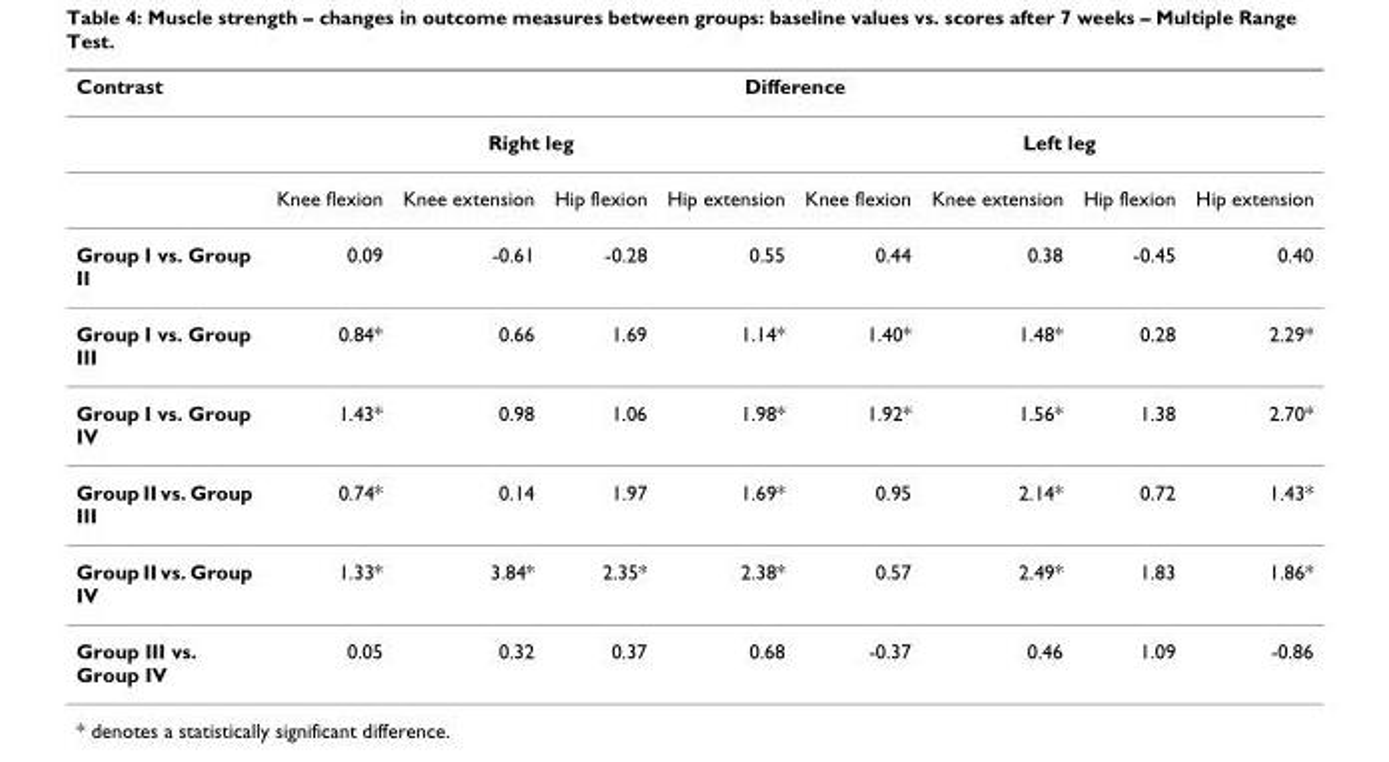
<table><thead><tr><td rowspan="3">Contrast</td><td colspan="8">Difference</td></tr><tr><td colspan="4">Right leg</td><td colspan="4">Left leg</td></tr><tr><td>Knee flexion</td><td>Knee extension</td><td>Hip flexion</td><td>Hip extension</td><td>Knee flexion</td><td>Knee extension</td><td>Hip flexion</td><td>Hip extension</td></tr></thead><tbody><tr><td>Group I vs. Group II</td><td>0.09</td><td>-0.61</td><td>-0.28</td><td>0.55</td><td>0.44</td><td>0.38</td><td>-0.45</td><td>0.40</td></tr><tr><td>Group I vs. Group III</td><td>0.84*</td><td>0.66</td><td>1.69</td><td>1.14*</td><td>1.40*</td><td>1.48*</td><td>0.28</td><td>2.29*</td></tr><tr><td>Group I vs. Group IV</td><td>1.43*</td><td>0.98</td><td>1.06</td><td>1.98*</td><td>1.92*</td><td>1.56*</td><td>1.38</td><td>2.70*</td></tr><tr><td>Group II vs. Group III</td><td>0.74*</td><td>0.14</td><td>1.97</td><td>1.69*</td><td>0.95</td><td>2.14*</td><td>0.72</td><td>1.43*</td></tr><tr><td>Group II vs. Group IV</td><td>1.33*</td><td>3.84*</td><td>2.35*</td><td>2.38*</td><td>0.57</td><td>2.49*</td><td>1.83</td><td>1.86*</td></tr><tr><td>Group III vs. Group IV</td><td>0.05</td><td>0.32</td><td>0.37</td><td>0.68</td><td>-0.37</td><td>0.46</td><td>1.09</td><td>-0.86</td></tr></tbody></table>